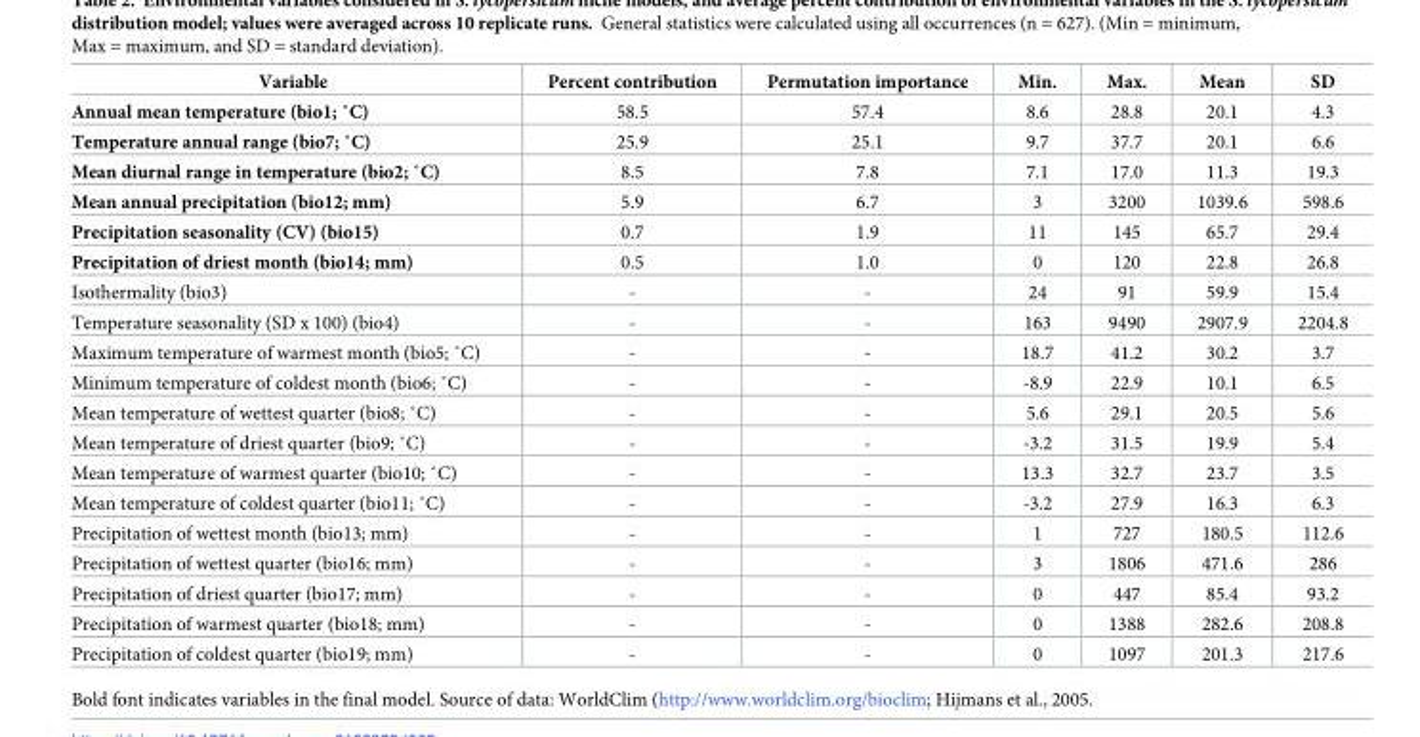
<table><thead><tr><td>Variable</td><td>Percent contribution</td><td>Permutation importance</td><td>Min.</td><td>Max.</td><td>Mean</td><td>SD</td></tr></thead><tbody><tr><td>Annual mean temperature (bio1; ˚C)</td><td>58.5</td><td>57.4</td><td>8.6</td><td>28.8</td><td>20.1</td><td>4.3</td></tr><tr><td>Temperature annual range (bio7; ˚C)</td><td>25.9</td><td>25.1</td><td>9.7</td><td>37.7</td><td>20.1</td><td>6.6</td></tr><tr><td>Mean diurnal range in temperature (bio2; ˚C)</td><td>8.5</td><td>7.8</td><td>7.1</td><td>17.0</td><td>11.3</td><td>19.3</td></tr><tr><td>Mean annual precipitation (bio12; mm)</td><td>5.9</td><td>6.7</td><td>3</td><td>3200</td><td>1039.6</td><td>598.6</td></tr><tr><td>Precipitation seasonality (CV) (bio15)</td><td>0.7</td><td>1.9</td><td>11</td><td>145</td><td>65.7</td><td>29.4</td></tr><tr><td>Precipitation of driest month (bio14; mm)</td><td>0.5</td><td>1.0</td><td>0</td><td>120</td><td>22.8</td><td>26.8</td></tr><tr><td>Isothermality (bio3)</td><td>-</td><td>-</td><td>24</td><td>91</td><td>59.9</td><td>15.4</td></tr><tr><td>Temperature seasonality (SD x 100) (bio4)</td><td>-</td><td>-</td><td>163</td><td>9490</td><td>2907.9</td><td>2204.8</td></tr><tr><td>Maximum temperature of warmest month (bio5; ˚C)</td><td>-</td><td>-</td><td>18.7</td><td>41.2</td><td>30.2</td><td>3.7</td></tr><tr><td>Minimum temperature of coldest month (bio6; ˚C)</td><td>-</td><td>-</td><td>-8.9</td><td>22.9</td><td>10.1</td><td>6.5</td></tr><tr><td>Mean temperature of wettest quarter (bio8; ˚C)</td><td>-</td><td>-</td><td>5.6</td><td>29.1</td><td>20.5</td><td>5.6</td></tr><tr><td>Mean temperature of driest quarter (bio9; ˚C)</td><td>-</td><td>-</td><td>-3.2</td><td>31.5</td><td>19.9</td><td>5.4</td></tr><tr><td>Mean temperature of warmest quarter (bio10; ˚C)</td><td>-</td><td>-</td><td>13.3</td><td>32.7</td><td>23.7</td><td>3.5</td></tr><tr><td>Mean temperature of coldest quarter (bio11; ˚C)</td><td>-</td><td>-</td><td>-3.2</td><td>27.9</td><td>16.3</td><td>6.3</td></tr><tr><td>Precipitation of wettest month (bio13; mm)</td><td>-</td><td>-</td><td>1</td><td>727</td><td>180.5</td><td>112.6</td></tr><tr><td>Precipitation of wettest quarter (bio16; mm)</td><td>-</td><td>-</td><td>3</td><td>1806</td><td>471.6</td><td>286</td></tr><tr><td>Precipitation of driest quarter (bio17; mm)</td><td>-</td><td>-</td><td>0</td><td>447</td><td>85.4</td><td>93.2</td></tr><tr><td>Precipitation of warmest quarter (bio18; mm)</td><td>-</td><td>-</td><td>0</td><td>1388</td><td>282.6</td><td>208.8</td></tr><tr><td>Precipitation of coldest quarter (bio19; mm)</td><td>-</td><td>-</td><td>0</td><td>1097</td><td>201.3</td><td>217.6</td></tr></tbody></table>